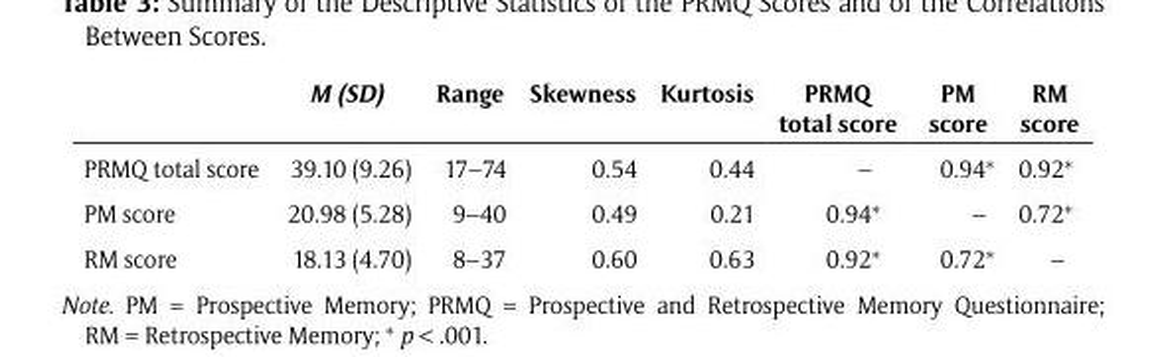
<table><thead><tr><td></td><td>M (SD)</td><td>Range</td><td>Skewness</td><td>Kurtosis</td><td>PRMQ total score</td><td>PM score</td><td>RM score</td></tr></thead><tbody><tr><td>PRMQ total score</td><td>39.10 (9.26)</td><td>17–74</td><td>0.54</td><td>0.44</td><td>–</td><td>0.94*</td><td>0.92*</td></tr><tr><td>PM score</td><td>20.98 (5.28)</td><td>9–40</td><td>0.49</td><td>0.21</td><td>0.94*</td><td>–</td><td>0.72*</td></tr><tr><td>RM score</td><td>18.13 (4.70)</td><td>8–37</td><td>0.60</td><td>0.63</td><td>0.92*</td><td>0.72*</td><td>–</td></tr></tbody></table>